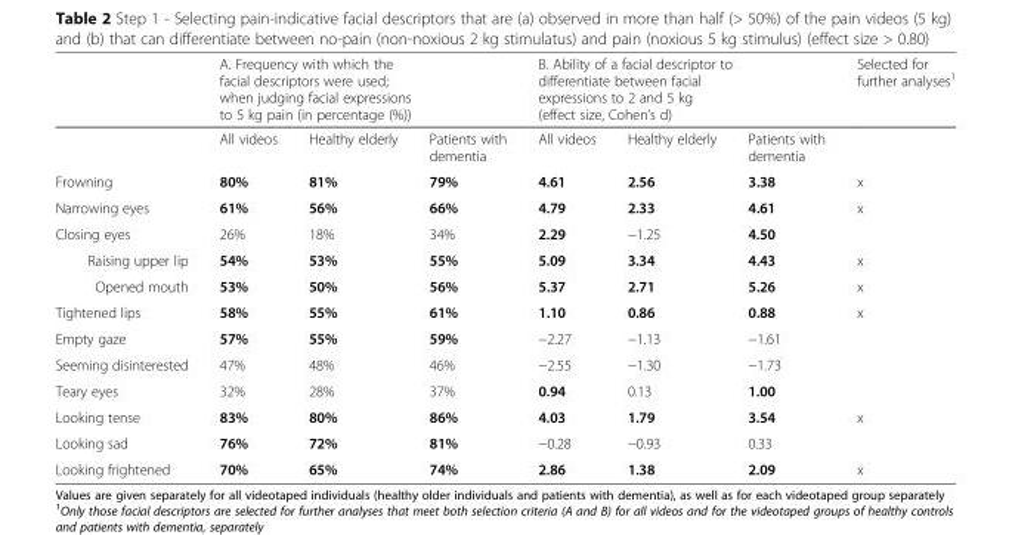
<table><thead><tr><td rowspan="2"></td><td colspan="3">A. Frequency with which the facial descriptors were used; when judging facial expressions to 5 kg pain (in percentage (%))</td><td colspan="3">B. Ability of a facial descriptor to differentiate between facial expressions to 2 and 5 kg (effect size, Cohen’s d)</td><td rowspan="2">Selected for further analyses<sup>1</sup></td></tr><tr><td>All videos</td><td>Healthy elderly</td><td>Patients with dementia</td><td>All videos</td><td>Healthy elderly</td><td>Patients with dementia</td></tr></thead><tbody><tr><td>Frowning</td><td>80%</td><td>81%</td><td>79%</td><td>4.61</td><td>2.56</td><td>3.38</td><td>x</td></tr><tr><td>Narrowing eyes</td><td>61%</td><td>56%</td><td>66%</td><td>4.79</td><td>2.33</td><td>4.61</td><td>x</td></tr><tr><td>Closing eyes</td><td>26%</td><td>18%</td><td>34%</td><td>2.29</td><td>−1.25</td><td>4.50</td><td></td></tr><tr><td>Raising upper lip</td><td>54%</td><td>53%</td><td>55%</td><td>5.09</td><td>3.34</td><td>4.43</td><td>x</td></tr><tr><td>Opened mouth</td><td>53%</td><td>50%</td><td>56%</td><td>5.37</td><td>2.71</td><td>5.26</td><td>x</td></tr><tr><td>Tightened lips</td><td>58%</td><td>55%</td><td>61%</td><td>1.10</td><td>0.86</td><td>0.88</td><td>x</td></tr><tr><td>Empty gaze</td><td>57%</td><td>55%</td><td>59%</td><td>−2.27</td><td>−1.13</td><td>−1.61</td><td></td></tr><tr><td>Seeming disinterested</td><td>47%</td><td>48%</td><td>46%</td><td>−2.55</td><td>−1.30</td><td>−1.73</td><td></td></tr><tr><td>Teary eyes</td><td>32%</td><td>28%</td><td>37%</td><td>0.94</td><td>0.13</td><td>1.00</td><td></td></tr><tr><td>Looking tense</td><td>83%</td><td>80%</td><td>86%</td><td>4.03</td><td>1.79</td><td>3.54</td><td>x</td></tr><tr><td>Looking sad</td><td>76%</td><td>72%</td><td>81%</td><td>−0.28</td><td>−0.93</td><td>0.33</td><td></td></tr><tr><td>Looking frightened</td><td>70%</td><td>65%</td><td>74%</td><td>2.86</td><td>1.38</td><td>2.09</td><td>x</td></tr></tbody></table>